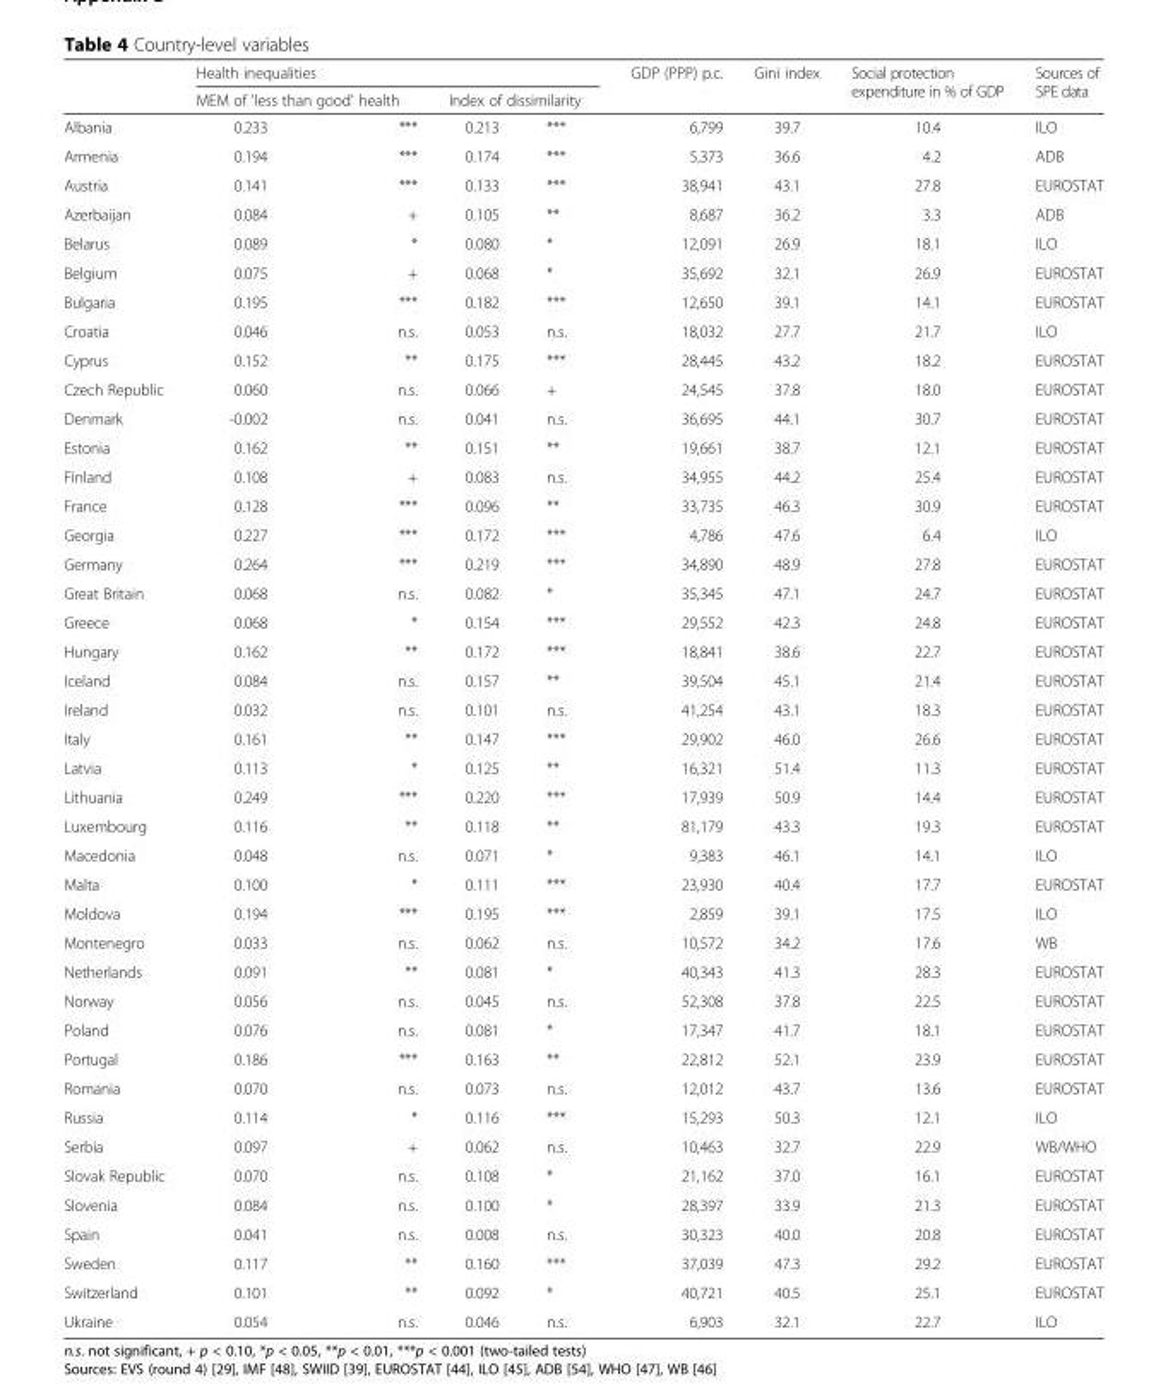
<table><thead><tr><td rowspan="3">Albania</td><td colspan="4">Health inequalities</td><td rowspan="3">GDP (PPP) p.c. 6,799</td><td rowspan="3">Gini index 39.7</td><td rowspan="3">Social protection expenditure in % of GDP 10.4</td><td rowspan="3">Sources of SPE data ILO</td></tr><tr><td colspan="2">MEM of &#x27;less than good&#x27; health</td><td colspan="2">Index of dissimilarity</td></tr><tr><td>0.233</td><td>***</td><td>0.213</td><td>***</td></tr></thead><tbody><tr><td>Armenia</td><td>0.194</td><td>***</td><td>0.174</td><td>***</td><td>5,373</td><td>36.6</td><td>4.2</td><td>ADB</td></tr><tr><td>Austria</td><td>0.141</td><td>***</td><td>0.133</td><td>***</td><td>38,941</td><td>43.1</td><td>27.8</td><td>EUROSTAT</td></tr><tr><td>Azerbaijan</td><td>0.084</td><td>+</td><td>0.105</td><td>**</td><td>8,687</td><td>36.2</td><td>3.3</td><td>ADB</td></tr><tr><td>Belarus</td><td>0.089</td><td>*</td><td>0.080</td><td>*</td><td>12,091</td><td>26.9</td><td>18.1</td><td>ILO</td></tr><tr><td>Belgium</td><td>0.075</td><td>+</td><td>0.068</td><td>*</td><td>35,692</td><td>32.1</td><td>26.9</td><td>EUROSTAT</td></tr><tr><td>Bulgaria</td><td>0.195</td><td>***</td><td>0.182</td><td>***</td><td>12,650</td><td>39.1</td><td>14.1</td><td>EUROSTAT</td></tr><tr><td>Croatia</td><td>0.046</td><td>n.s.</td><td>0.053</td><td>n.s.</td><td>18,032</td><td>27.7</td><td>21.7</td><td>ILO</td></tr><tr><td>Cyprus</td><td>0.152</td><td>**</td><td>0.175</td><td>***</td><td>28,445</td><td>43.2</td><td>18.2</td><td>EUROSTAT</td></tr><tr><td>Czech Republic</td><td>0.060</td><td>n.s.</td><td>0.066</td><td>+</td><td>24,545</td><td>37.8</td><td>18.0</td><td>EUROSTAT</td></tr><tr><td>Denmark</td><td>-0.002</td><td>n.s.</td><td>0.041</td><td>n.s.</td><td>36,695</td><td>44.1</td><td>30.7</td><td>EUROSTAT</td></tr><tr><td>Estonia</td><td>0.162</td><td>**</td><td>0.151</td><td>**</td><td>19,661</td><td>38.7</td><td>12.1</td><td>EUROSTAT</td></tr><tr><td>Finland</td><td>0.108</td><td>+</td><td>0.083</td><td>n.s.</td><td>34,955</td><td>44.2</td><td>25.4</td><td>EUROSTAT</td></tr><tr><td>France</td><td>0.128</td><td>***</td><td>0.096</td><td>**</td><td>33,735</td><td>46.3</td><td>30.9</td><td>EUROSTAT</td></tr><tr><td>Georgia</td><td>0.227</td><td>***</td><td>0.172</td><td>***</td><td>4,786</td><td>47.6</td><td>6.4</td><td>ILO</td></tr><tr><td>Germany</td><td>0.264</td><td>***</td><td>0.219</td><td>***</td><td>34,890</td><td>48.9</td><td>27.8</td><td>EUROSTAT</td></tr><tr><td>Great Britain</td><td>0.068</td><td>n.s.</td><td>0.082</td><td>*</td><td>35,345</td><td>47.1</td><td>24.7</td><td>EUROSTAT</td></tr><tr><td>Greece</td><td>0.068</td><td>*</td><td>0.154</td><td>***</td><td>29,552</td><td>42.3</td><td>24.8</td><td>EUROSTAT</td></tr><tr><td>Hungary</td><td>0.162</td><td>**</td><td>0.172</td><td>***</td><td>18,841</td><td>38.6</td><td>22.7</td><td>EUROSTAT</td></tr><tr><td>Iceland</td><td>0.084</td><td>n.s.</td><td>0.157</td><td>**</td><td>39,504</td><td>45.1</td><td>21.4</td><td>EUROSTAT</td></tr><tr><td>Ireland</td><td>0.032</td><td>n.s.</td><td>0.101</td><td>n.s.</td><td>41,254</td><td>43.1</td><td>18.3</td><td>EUROSTAT</td></tr><tr><td>Italy</td><td>0.161</td><td>**</td><td>0.147</td><td>***</td><td>29,902</td><td>46.0</td><td>26.6</td><td>EUROSTAT</td></tr><tr><td>Latvia</td><td>0.113</td><td>*</td><td>0.125</td><td>**</td><td>16,321</td><td>51.4</td><td>11.3</td><td>EUROSTAT</td></tr><tr><td>Lithuania</td><td>0.249</td><td>***</td><td>0.220</td><td>***</td><td>17,939</td><td>50.9</td><td>14.4</td><td>EUROSTAT</td></tr><tr><td>Luxembourg</td><td>0.116</td><td>**</td><td>0.118</td><td>**</td><td>81,179</td><td>43.3</td><td>19.3</td><td>EUROSTAT</td></tr><tr><td>Macedonia</td><td>0.048</td><td>n.s.</td><td>0.071</td><td>*</td><td>9,383</td><td>46.1</td><td>14.1</td><td>ILO</td></tr><tr><td>Malta</td><td>0.100</td><td>*</td><td>0.111</td><td>***</td><td>23,930</td><td>40.4</td><td>17.7</td><td>EUROSTAT</td></tr><tr><td>Moldova</td><td>0.194</td><td>***</td><td>0.195</td><td>***</td><td>2,859</td><td>39.1</td><td>17.5</td><td>ILO</td></tr><tr><td>Montenegro</td><td>0.033</td><td>n.s.</td><td>0.062</td><td>n.s.</td><td>10,572</td><td>34.2</td><td>17.6</td><td>WB</td></tr><tr><td>Netherlands</td><td>0.091</td><td>**</td><td>0.081</td><td>*</td><td>40,343</td><td>41.3</td><td>28.3</td><td>EUROSTAT</td></tr><tr><td>Norway</td><td>0.056</td><td>n.s.</td><td>0.045</td><td>n.s.</td><td>52,308</td><td>37.8</td><td>22.5</td><td>EUROSTAT</td></tr><tr><td>Poland</td><td>0.076</td><td>n.s.</td><td>0.081</td><td>*</td><td>17,347</td><td>41.7</td><td>18.1</td><td>EUROSTAT</td></tr><tr><td>Portugal</td><td>0.186</td><td>***</td><td>0.163</td><td>**</td><td>22,812</td><td>52.1</td><td>23.9</td><td>EUROSTAT</td></tr><tr><td>Romania</td><td>0.070</td><td>n.s.</td><td>0.073</td><td>n.s.</td><td>12,012</td><td>43.7</td><td>13.6</td><td>EUROSTAT</td></tr><tr><td>Russia</td><td>0.114</td><td>*</td><td>0.116</td><td>***</td><td>15,293</td><td>50.3</td><td>12.1</td><td>ILO</td></tr><tr><td>Serbia</td><td>0.097</td><td>+</td><td>0.062</td><td>n.s.</td><td>10,463</td><td>32.7</td><td>22.9</td><td>WB/WHO</td></tr><tr><td>Slovak Republic</td><td>0.070</td><td>n.s.</td><td>0.108</td><td>*</td><td>21,162</td><td>37.0</td><td>16.1</td><td>EUROSTAT</td></tr><tr><td>Slovenia</td><td>0.084</td><td>n.s.</td><td>0.100</td><td>*</td><td>28,397</td><td>33.9</td><td>21.3</td><td>EUROSTAT</td></tr><tr><td>Spain</td><td>0.041</td><td>n.s.</td><td>0.008</td><td>n.s.</td><td>30,323</td><td>40.0</td><td>20.8</td><td>EUROSTAT</td></tr><tr><td>Sweden</td><td>0.117</td><td>**</td><td>0.160</td><td>***</td><td>37,039</td><td>47.3</td><td>29.2</td><td>EUROSTAT</td></tr><tr><td>Switzerland</td><td>0.101</td><td>**</td><td>0.092</td><td>*</td><td>40,721</td><td>40.5</td><td>25.1</td><td>EUROSTAT</td></tr><tr><td>Ukraine</td><td>0.054</td><td>n.s.</td><td>0.046</td><td>n.s.</td><td>6,903</td><td>32.1</td><td>22.7</td><td>ILO</td></tr></tbody></table>